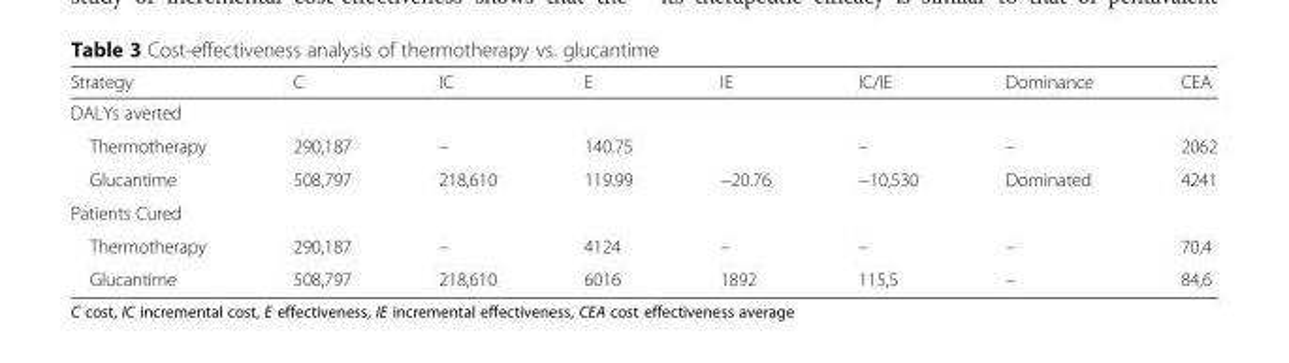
<table><thead><tr><td>Strategy</td><td>C</td><td>IC</td><td>E</td><td>IE</td><td>IC/IE</td><td>Dominance</td><td>CEA</td></tr></thead><tbody><tr><td colspan="8">DALYs averted</td></tr><tr><td>Thermotherapy</td><td>290,187</td><td>–</td><td>140.75</td><td></td><td>–</td><td>–</td><td>2062</td></tr><tr><td>Glucantime</td><td>508,797</td><td>218,610</td><td>119.99</td><td>−20.76</td><td>−10,530</td><td>Dominated</td><td>4241</td></tr><tr><td colspan="8">Patients Cured</td></tr><tr><td>Thermotherapy</td><td>290,187</td><td>–</td><td>4124</td><td>–</td><td>–</td><td>–</td><td>70,4</td></tr><tr><td>Glucantime</td><td>508,797</td><td>218,610</td><td>6016</td><td>1892</td><td>115,5</td><td>–</td><td>84,6</td></tr></tbody></table>